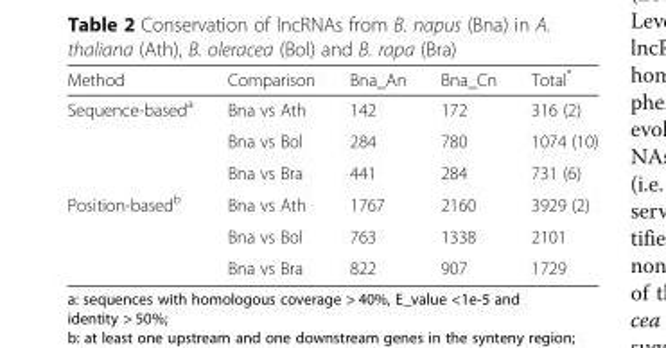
<table><thead><tr><td>Method</td><td>Comparison</td><td>Bna_An</td><td>Bna_Cn</td><td>Total*</td></tr></thead><tbody><tr><td rowspan="3">Sequence-based<sup>a</sup></td><td>Bna vs Ath</td><td>142</td><td>172</td><td>316 (2)</td></tr><tr><td>Bna vs Bol</td><td>284</td><td>780</td><td>1074 (10)</td></tr><tr><td>Bna vs Bra</td><td>441</td><td>284</td><td>731 (6)</td></tr><tr><td rowspan="3">Position-based<sup>b</sup></td><td>Bna vs Ath</td><td>1767</td><td>2160</td><td>3929 (2)</td></tr><tr><td>Bna vs Bol</td><td>763</td><td>1338</td><td>2101</td></tr><tr><td>Bna vs Bra</td><td>822</td><td>907</td><td>1729</td></tr></tbody></table>